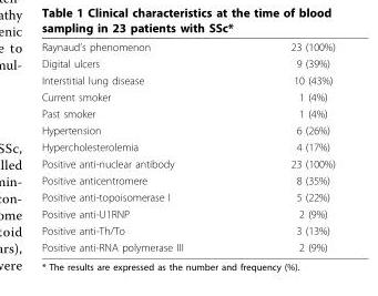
<table><tbody><tr><td>Raynaud’s phenomenon</td><td>23 (100%)</td></tr><tr><td>Digital ulcers</td><td>9 (39%)</td></tr><tr><td>Interstitial lung disease</td><td>10 (43%)</td></tr><tr><td>Current smoker</td><td>1 (4%)</td></tr><tr><td>Past smoker</td><td>1 (4%)</td></tr><tr><td>Hypertension</td><td>6 (26%)</td></tr><tr><td>Hypercholesterolemia</td><td>4 (17%)</td></tr><tr><td>Positive anti-nuclear antibody</td><td>23 (100%)</td></tr><tr><td>Positive anticentromere</td><td>8 (35%)</td></tr><tr><td>Positive anti-topoisomerase I</td><td>5 (22%)</td></tr><tr><td>Positive anti-U1RNP</td><td>2 (9%)</td></tr><tr><td>Positive anti-Th/To</td><td>3 (13%)</td></tr><tr><td>Positive anti-RNA polymerase III</td><td>2 (9%)</td></tr></tbody></table>